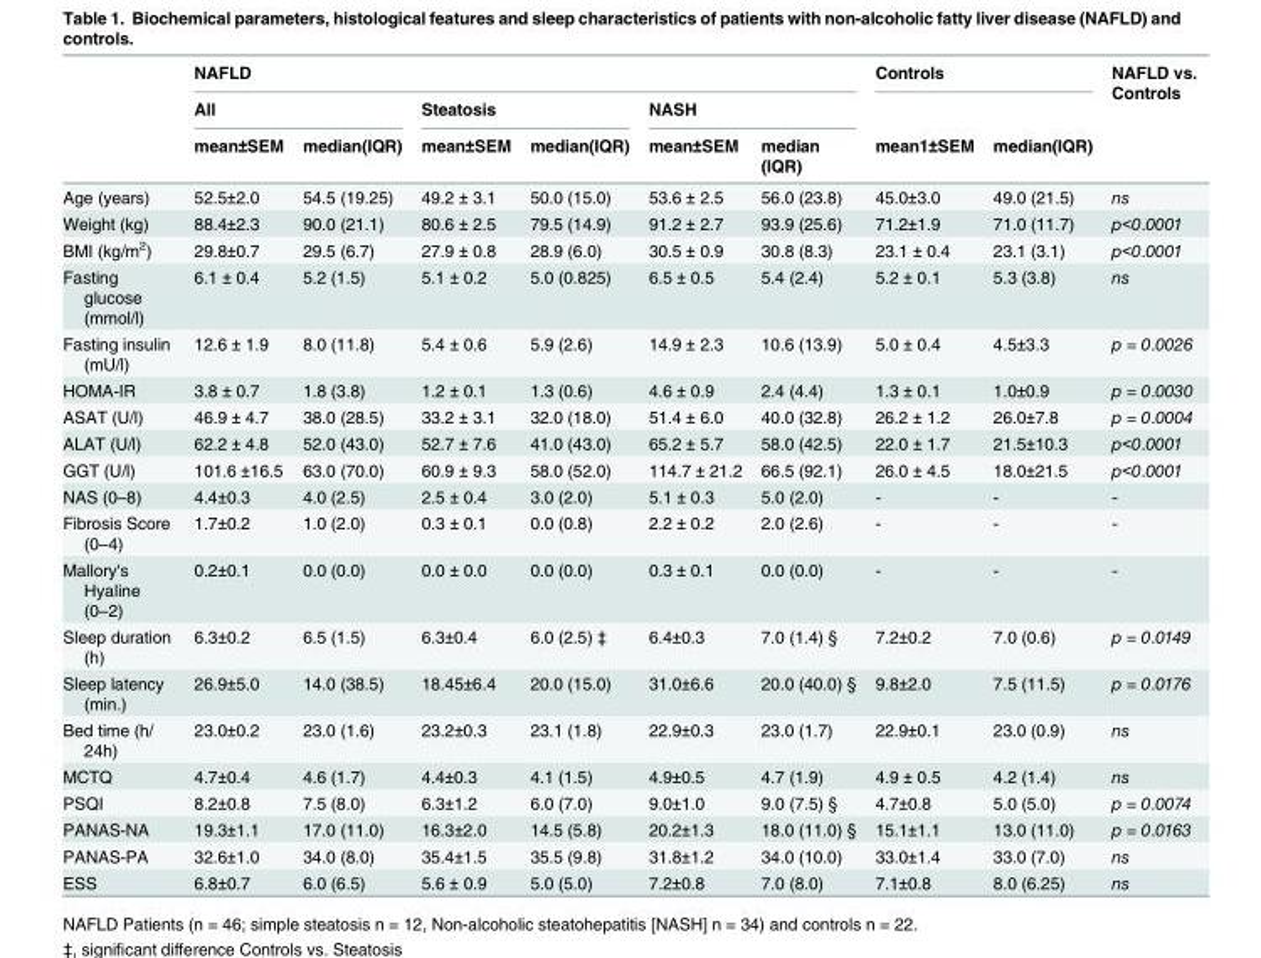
<table><thead><tr><td rowspan="3"></td><td colspan="6">NAFLD</td><td colspan="2">Controls</td><td rowspan="3">NAFLD vs. Controls</td></tr><tr><td colspan="2">All</td><td colspan="2">Steatosis</td><td colspan="2">NASH</td><td rowspan="2">mean1±SEM</td><td rowspan="2">median(IQR)</td></tr><tr><td>mean±SEM</td><td>median(IQR)</td><td>mean±SEM</td><td>median(IQR)</td><td>mean±SEM</td><td>median (IQR)</td></tr></thead><tbody><tr><td>Age (years)</td><td>52.5±2.0</td><td>54.5 (19.25)</td><td>49.2 ± 3.1</td><td>50.0 (15.0)</td><td>53.6 ± 2.5</td><td>56.0 (23.8)</td><td>45.0±3.0</td><td>49.0 (21.5)</td><td>ns</td></tr><tr><td>Weight (kg)</td><td>88.4±2.3</td><td>90.0 (21.1)</td><td>80.6 ± 2.5</td><td>79.5 (14.9)</td><td>91.2 ± 2.7</td><td>93.9 (25.6)</td><td>71.2±1.9</td><td>71.0 (11.7)</td><td>p&lt;0.0001</td></tr><tr><td>BMI (kg/m<sup>2</sup>)</td><td>29.8±0.7</td><td>29.5 (6.7)</td><td>27.9 ± 0.8</td><td>28.9 (6.0)</td><td>30.5 ± 0.9</td><td>30.8 (8.3)</td><td>23.1 ± 0.4</td><td>23.1 (3.1)</td><td>p&lt;0.0001</td></tr><tr><td>Fasting glucose (mmol/l)</td><td>6.1 ± 0.4</td><td>5.2 (1.5)</td><td>5.1 ± 0.2</td><td>5.0 (0.825)</td><td>6.5 ± 0.5</td><td>5.4 (2.4)</td><td>5.2 ± 0.1</td><td>5.3 (3.8)</td><td>ns</td></tr><tr><td>Fasting insulin (mU/l)</td><td>12.6 ± 1.9</td><td>8.0 (11.8)</td><td>5.4 ± 0.6</td><td>5.9 (2.6)</td><td>14.9 ± 2.3</td><td>10.6 (13.9)</td><td>5.0 ± 0.4</td><td>4.5±3.3</td><td>p = 0.0026</td></tr><tr><td>HOMA-IR</td><td>3.8 ± 0.7</td><td>1.8 (3.8)</td><td>1.2 ± 0.1</td><td>1.3 (0.6)</td><td>4.6 ± 0.9</td><td>2.4 (4.4)</td><td>1.3 ± 0.1</td><td>1.0±0.9</td><td>p = 0.0030</td></tr><tr><td>ASAT (U/l)</td><td>46.9 ± 4.7</td><td>38.0 (28.5)</td><td>33.2 ± 3.1</td><td>32.0 (18.0)</td><td>51.4 ± 6.0</td><td>40.0 (32.8)</td><td>26.2 ± 1.2</td><td>26.0±7.8</td><td>p = 0.0004</td></tr><tr><td>ALAT (U/l)</td><td>62.2 ± 4.8</td><td>52.0 (43.0)</td><td>52.7 ± 7.6</td><td>41.0 (43.0)</td><td>65.2 ± 5.7</td><td>58.0 (42.5)</td><td>22.0 ± 1.7</td><td>21.5±10.3</td><td>p&lt;0.0001</td></tr><tr><td>GGT (U/l)</td><td>101.6 ±16.5</td><td>63.0 (70.0)</td><td>60.9 ± 9.3</td><td>58.0 (52.0)</td><td>114.7 ± 21.2</td><td>66.5 (92.1)</td><td>26.0 ± 4.5</td><td>18.0±21.5</td><td>p&lt;0.0001</td></tr><tr><td>NAS (0–8)</td><td>4.4±0.3</td><td>4.0 (2.5)</td><td>2.5 ± 0.4</td><td>3.0 (2.0)</td><td>5.1 ± 0.3</td><td>5.0 (2.0)</td><td>-</td><td>-</td><td>-</td></tr><tr><td>Fibrosis Score (0–4)</td><td>1.7±0.2</td><td>1.0 (2.0)</td><td>0.3 ± 0.1</td><td>0.0 (0.8)</td><td>2.2 ± 0.2</td><td>2.0 (2.6)</td><td>-</td><td>-</td><td>-</td></tr><tr><td>Mallory&#x27;s Hyaline (0–2)</td><td>0.2±0.1</td><td>0.0 (0.0)</td><td>0.0 ± 0.0</td><td>0.0 (0.0)</td><td>0.3 ± 0.1</td><td>0.0 (0.0)</td><td>-</td><td>-</td><td>-</td></tr><tr><td>Sleep duration (h)</td><td>6.3±0.2</td><td>6.5 (1.5)</td><td>6.3±0.4</td><td>6.0 (2.5) ‡</td><td>6.4±0.3</td><td>7.0 (1.4) §</td><td>7.2±0.2</td><td>7.0 (0.6)</td><td>p = 0.0149</td></tr><tr><td>Sleep latency (min.)</td><td>26.9±5.0</td><td>14.0 (38.5)</td><td>18.45±6.4</td><td>20.0 (15.0)</td><td>31.0±6.6</td><td>20.0 (40.0) §</td><td>9.8±2.0</td><td>7.5 (11.5)</td><td>p = 0.0176</td></tr><tr><td>Bed time (h/ 24h)</td><td>23.0±0.2</td><td>23.0 (1.6)</td><td>23.2±0.3</td><td>23.1 (1.8)</td><td>22.9±0.3</td><td>23.0 (1.7)</td><td>22.9±0.1</td><td>23.0 (0.9)</td><td>ns</td></tr><tr><td>MCTQ</td><td>4.7±0.4</td><td>4.6 (1.7)</td><td>4.4±0.3</td><td>4.1 (1.5)</td><td>4.9±0.5</td><td>4.7 (1.9)</td><td>4.9 ± 0.5</td><td>4.2 (1.4)</td><td>ns</td></tr><tr><td>PSQI</td><td>8.2±0.8</td><td>7.5 (8.0)</td><td>6.3±1.2</td><td>6.0 (7.0)</td><td>9.0±1.0</td><td>9.0 (7.5) §</td><td>4.7±0.8</td><td>5.0 (5.0)</td><td>p = 0.0074</td></tr><tr><td>PANAS-NA</td><td>19.3±1.1</td><td>17.0 (11.0)</td><td>16.3±2.0</td><td>14.5 (5.8)</td><td>20.2±1.3</td><td>18.0 (11.0) §</td><td>15.1±1.1</td><td>13.0 (11.0)</td><td>p = 0.0163</td></tr><tr><td>PANAS-PA</td><td>32.6±1.0</td><td>34.0 (8.0)</td><td>35.4±1.5</td><td>35.5 (9.8)</td><td>31.8±1.2</td><td>34.0 (10.0)</td><td>33.0±1.4</td><td>33.0 (7.0)</td><td>ns</td></tr><tr><td>ESS</td><td>6.8±0.7</td><td>6.0 (6.5)</td><td>5.6 ± 0.9</td><td>5.0 (5.0)</td><td>7.2±0.8</td><td>7.0 (8.0)</td><td>7.1±0.8</td><td>8.0 (6.25)</td><td>ns</td></tr></tbody></table>